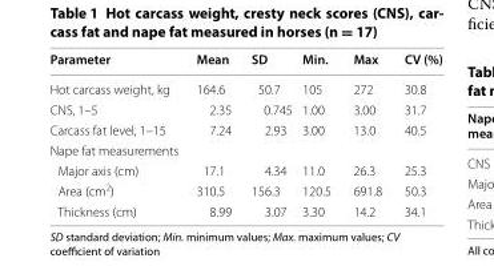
<table><thead><tr><td>Parameter</td><td>Mean</td><td>SD</td><td>Min.</td><td>Max</td><td>CV (%)</td></tr></thead><tbody><tr><td>Hot carcass weight, kg</td><td>164.6</td><td>50.7</td><td>105</td><td>272</td><td>30.8</td></tr><tr><td>CNS, 1–5</td><td>2.35</td><td>0.745</td><td>1.00</td><td>3.00</td><td>31.7</td></tr><tr><td>Carcass fat level, 1–15</td><td>7.24</td><td>2.93</td><td>3.00</td><td>13.0</td><td>40.5</td></tr><tr><td colspan="6">Nape fat measurements</td></tr><tr><td>Major axis (cm)</td><td>17.1</td><td>4.34</td><td>11.0</td><td>26.3</td><td>25.3</td></tr><tr><td>Area (cm<sup>2</sup>)</td><td>310.5</td><td>156.3</td><td>120.5</td><td>691.8</td><td>50.3</td></tr><tr><td>Thickness (cm)</td><td>8.99</td><td>3.07</td><td>3.30</td><td>14.2</td><td>34.1</td></tr></tbody></table>